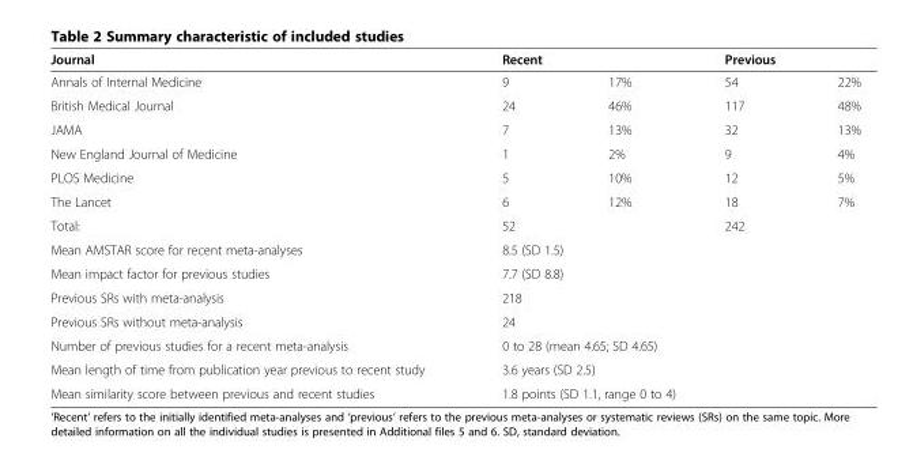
<table><thead><tr><td rowspan="2">Journal Annals of Internal Medicine</td><td colspan="2">Recent</td><td colspan="2">Previous</td></tr><tr><td>9</td><td>17%</td><td>54</td><td>22%</td></tr></thead><tbody><tr><td>British Medical Journal</td><td>24</td><td>46%</td><td>117</td><td>48%</td></tr><tr><td>JAMA</td><td>7</td><td>13%</td><td>32</td><td>13%</td></tr><tr><td>New England Journal of Medicine</td><td>1</td><td>2%</td><td>9</td><td>4%</td></tr><tr><td>PLOS Medicine</td><td>5</td><td>10%</td><td>12</td><td>5%</td></tr><tr><td>The Lancet</td><td>6</td><td>12%</td><td>18</td><td>7%</td></tr><tr><td>Total:</td><td>52</td><td></td><td>242</td><td></td></tr><tr><td>Mean AMSTAR score for recent meta-analyses</td><td colspan="4">8.5 (SD 1.5)</td></tr><tr><td>Mean impact factor for previous studies</td><td colspan="4">7.7 (SD 8.8)</td></tr><tr><td>Previous SRs with meta-analysis</td><td colspan="4">218</td></tr><tr><td>Previous SRs without meta-analysis</td><td colspan="4">24</td></tr><tr><td>Number of previous studies for a recent meta-analysis</td><td colspan="4">0 to 28 (mean 4.65; SD 4.65)</td></tr><tr><td>Mean length of time from publication year previous to recent study</td><td colspan="4">3.6 years (SD 2.5)</td></tr><tr><td>Mean similarity score between previous and recent studies</td><td colspan="4">1.8 points (SD 1.1, range 0 to 4)</td></tr></tbody></table>